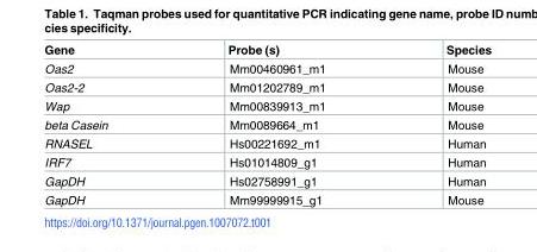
<table><thead><tr><td>Gene</td><td>Probe (s)</td><td>Species</td></tr></thead><tbody><tr><td>Oas2</td><td>Mm00460961_m1</td><td>Mouse</td></tr><tr><td>Oas2-2</td><td>Mm01202789_m1</td><td>Mouse</td></tr><tr><td>Wap</td><td>Mm00839913_m1</td><td>Mouse</td></tr><tr><td>beta Casein</td><td>Mm0089664_m1</td><td>Mouse</td></tr><tr><td>RNASEL</td><td>Hs00221692_m1</td><td>Human</td></tr><tr><td>IRF7</td><td>Hs01014809_g1</td><td>Human</td></tr><tr><td>GapDH</td><td>Hs02758991_g1</td><td>Human</td></tr><tr><td>GapDH</td><td>Mm99999915_g1</td><td>Mouse</td></tr></tbody></table>